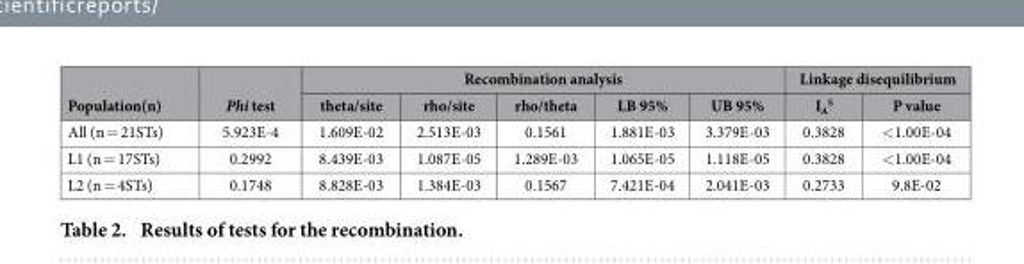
<table><thead><tr><td rowspan="2">Population(n)</td><td rowspan="2">Phi test</td><td colspan="5">Recombination analysis</td><td colspan="2">Linkage disequilibrium</td></tr><tr><td>theta/site</td><td>rho/site</td><td>rho/theta</td><td>LB 95%</td><td>UB 95%</td><td>I<sub>A</sub> <sup>S</sup></td><td>P value</td></tr></thead><tbody><tr><td>All (n = 21STs)</td><td>5.923E-4</td><td>1.609E-02</td><td>2.513E-03</td><td>0.1561</td><td>1.881E-03</td><td>3.379E-03</td><td>0.3828</td><td>&lt; 1.00E-04</td></tr><tr><td>L1 (n = 17STs)</td><td>0.2992</td><td>8.439E-03</td><td>1.087E-05</td><td>1.289E-03</td><td>1.065E-05</td><td>1.118E-05</td><td>0.3828</td><td>&lt; 1.00E-04</td></tr><tr><td>L2 (n = 4STs)</td><td>0.1748</td><td>8.828E-03</td><td>1.384E-03</td><td>0.1567</td><td>7.421E-04</td><td>2.041E-03</td><td>0.2733</td><td>9.8E-02</td></tr></tbody></table>